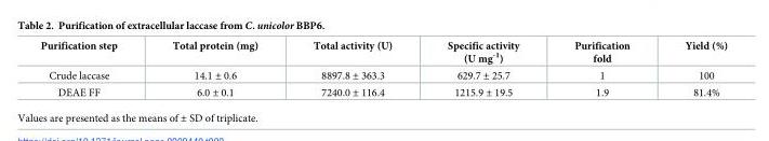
<table><thead><tr><td>Purification step</td><td>Total protein (mg)</td><td>Total activity (U)</td><td>Specific activity (U mg<sup>-1</sup>)</td><td>Purification fold</td><td>Yield (%)</td></tr></thead><tbody><tr><td>Crude laccase</td><td>14.1 ± 0.6</td><td>8897.8 ± 363.3</td><td>629.7 ± 25.7</td><td>1</td><td>100</td></tr><tr><td>DEAE FF</td><td>6.0 ± 0.1</td><td>7240.0 ± 116.4</td><td>1215.9 ± 19.5</td><td>1.9</td><td>81.4%</td></tr></tbody></table>